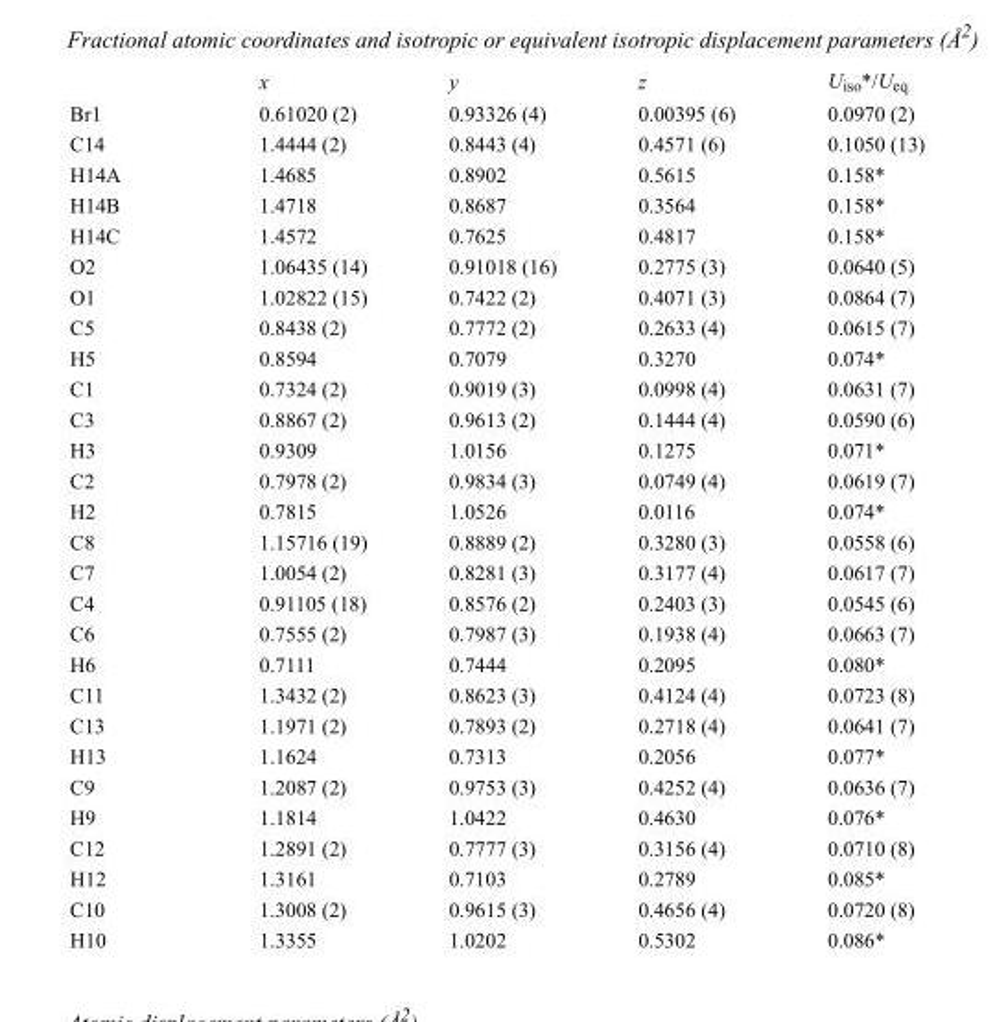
<table><thead><tr><td></td><td>x</td><td>y</td><td>z</td><td>U<sub>iso</sub>*/U<sub>eq</sub></td></tr></thead><tbody><tr><td>Br1</td><td>0.61020 (2)</td><td>0.93326 (4)</td><td>0.00395 (6)</td><td>0.0970 (2)</td></tr><tr><td>C14</td><td>1.4444 (2)</td><td>0.8443 (4)</td><td>0.4571 (6)</td><td>0.1050 (13)</td></tr><tr><td>H14A</td><td>1.4685</td><td>0.8902</td><td>0.5615</td><td>0.158*</td></tr><tr><td>H14B</td><td>1.4718</td><td>0.8687</td><td>0.3564</td><td>0.158*</td></tr><tr><td>H14C</td><td>1.4572</td><td>0.7625</td><td>0.4817</td><td>0.158*</td></tr><tr><td>O2</td><td>1.06435 (14)</td><td>0.91018 (16)</td><td>0.2775 (3)</td><td>0.0640 (5)</td></tr><tr><td>O1</td><td>1.02822 (15)</td><td>0.7422 (2)</td><td>0.4071 (3)</td><td>0.0864 (7)</td></tr><tr><td>C5</td><td>0.8438 (2)</td><td>0.7772 (2)</td><td>0.2633 (4)</td><td>0.0615 (7)</td></tr><tr><td>H5</td><td>0.8594</td><td>0.7079</td><td>0.3270</td><td>0.074*</td></tr><tr><td>C1</td><td>0.7324 (2)</td><td>0.9019 (3)</td><td>0.0998 (4)</td><td>0.0631 (7)</td></tr><tr><td>C3</td><td>0.8867 (2)</td><td>0.9613 (2)</td><td>0.1444 (4)</td><td>0.0590 (6)</td></tr><tr><td>H3</td><td>0.9309</td><td>1.0156</td><td>0.1275</td><td>0.071*</td></tr><tr><td>C2</td><td>0.7978 (2)</td><td>0.9834 (3)</td><td>0.0749 (4)</td><td>0.0619 (7)</td></tr><tr><td>H2</td><td>0.7815</td><td>1.0526</td><td>0.0116</td><td>0.074*</td></tr><tr><td>C8</td><td>1.15716 (19)</td><td>0.8889 (2)</td><td>0.3280 (3)</td><td>0.0558 (6)</td></tr><tr><td>C7</td><td>1.0054 (2)</td><td>0.8281 (3)</td><td>0.3177 (4)</td><td>0.0617 (7)</td></tr><tr><td>C4</td><td>0.91105 (18)</td><td>0.8576 (2)</td><td>0.2403 (3)</td><td>0.0545 (6)</td></tr><tr><td>C6</td><td>0.7555 (2)</td><td>0.7987 (3)</td><td>0.1938 (4)</td><td>0.0663 (7)</td></tr><tr><td>H6</td><td>0.7111</td><td>0.7444</td><td>0.2095</td><td>0.080*</td></tr><tr><td>C11</td><td>1.3432 (2)</td><td>0.8623 (3)</td><td>0.4124 (4)</td><td>0.0723 (8)</td></tr><tr><td>C13</td><td>1.1971 (2)</td><td>0.7893 (2)</td><td>0.2718 (4)</td><td>0.0641 (7)</td></tr><tr><td>H13</td><td>1.1624</td><td>0.7313</td><td>0.2056</td><td>0.077*</td></tr><tr><td>C9</td><td>1.2087 (2)</td><td>0.9753 (3)</td><td>0.4252 (4)</td><td>0.0636 (7)</td></tr><tr><td>H9</td><td>1.1814</td><td>1.0422</td><td>0.4630</td><td>0.076*</td></tr><tr><td>C12</td><td>1.2891 (2)</td><td>0.7777 (3)</td><td>0.3156 (4)</td><td>0.0710 (8)</td></tr><tr><td>H12</td><td>1.3161</td><td>0.7103</td><td>0.2789</td><td>0.085*</td></tr><tr><td>C10</td><td>1.3008 (2)</td><td>0.9615 (3)</td><td>0.4656 (4)</td><td>0.0720 (8)</td></tr><tr><td>H10</td><td>1.3355</td><td>1.0202</td><td>0.5302</td><td>0.086*</td></tr></tbody></table>